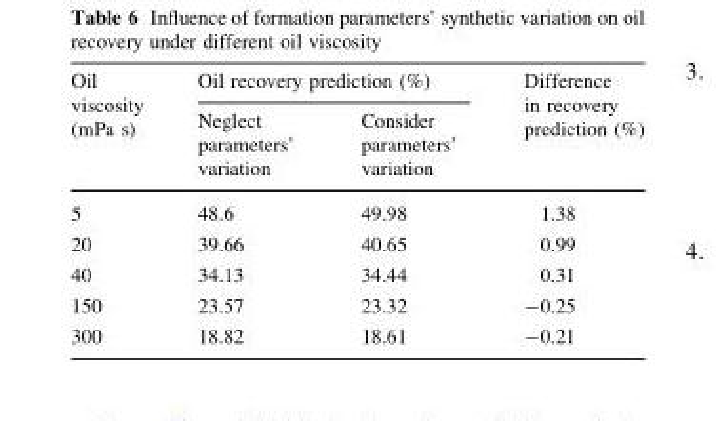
<table><thead><tr><td rowspan="2">Oil viscosity (mPa s)</td><td colspan="2">Oil recovery prediction (%)</td><td rowspan="2">Difference in recovery prediction (%)</td></tr><tr><td>Neglect parameters’ variation</td><td>Consider parameters’ variation</td></tr></thead><tbody><tr><td>5</td><td>48.6</td><td>49.98</td><td>1.38</td></tr><tr><td>20</td><td>39.66</td><td>40.65</td><td>0.99</td></tr><tr><td>40</td><td>34.13</td><td>34.44</td><td>0.31</td></tr><tr><td>150</td><td>23.57</td><td>23.32</td><td>-0.25</td></tr><tr><td>300</td><td>18.82</td><td>18.61</td><td>-0.21</td></tr></tbody></table>